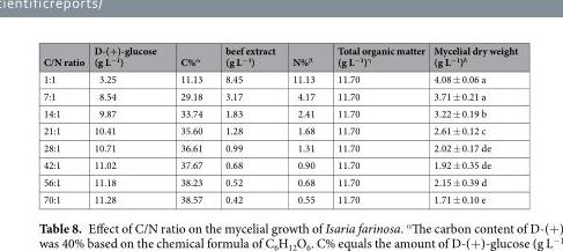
<table><thead><tr><td>C/N ratio</td><td>D-(+)-glucose (g L<sup>−1</sup>)</td><td>C%<sup>α</sup></td><td>beef extract (g L<sup>−1</sup>)</td><td>N%<sup>β</sup></td><td>Total organic matter (g L<sup>−1</sup>)<sup>γ</sup></td><td>Mycelial dry weight (g L<sup>−1</sup>)<sup>δ</sup></td></tr></thead><tbody><tr><td>1:1</td><td>3.25</td><td>11.13</td><td>8.45</td><td>11.13</td><td>11.70</td><td>4.08 ± 0.06 a</td></tr><tr><td>7:1</td><td>8.54</td><td>29.18</td><td>3.17</td><td>4.17</td><td>11.70</td><td>3.71 ± 0.21 a</td></tr><tr><td>14:1</td><td>9.87</td><td>33.74</td><td>1.83</td><td>2.41</td><td>11.70</td><td>3.22 ± 0.19 b</td></tr><tr><td>21:1</td><td>10.41</td><td>35.60</td><td>1.28</td><td>1.68</td><td>11.70</td><td>2.61 ± 0.12 c</td></tr><tr><td>28:1</td><td>10.71</td><td>36.61</td><td>0.99</td><td>1.31</td><td>11.70</td><td>2.02 ± 0.17 de</td></tr><tr><td>42:1</td><td>11.02</td><td>37.67</td><td>0.68</td><td>0.90</td><td>11.70</td><td>1.92 ± 0.35 de</td></tr><tr><td>56:1</td><td>11.18</td><td>38.23</td><td>0.52</td><td>0.68</td><td>11.70</td><td>2.15 ± 0.39 d</td></tr><tr><td>70:1</td><td>11.28</td><td>38.57</td><td>0.42</td><td>0.55</td><td>11.70</td><td>1.71 ± 0.10 e</td></tr></tbody></table>